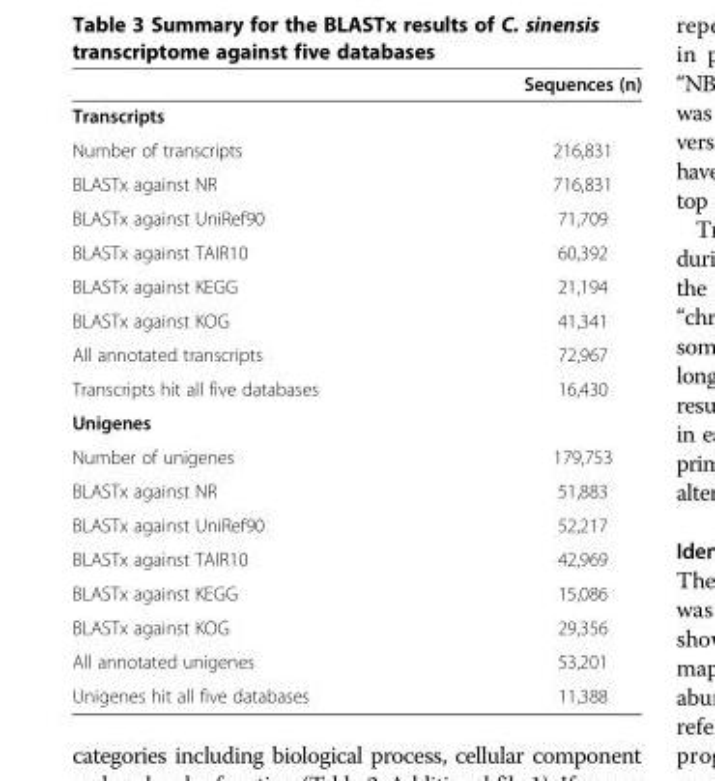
<table><thead><tr><td></td><td>Sequences (n)</td></tr></thead><tbody><tr><td colspan="2">Transcripts</td></tr><tr><td>Number of transcripts</td><td>216,831</td></tr><tr><td>BLASTx against NR</td><td>716,831</td></tr><tr><td>BLASTx against UniRef90</td><td>71,709</td></tr><tr><td>BLASTx against TAIR10</td><td>60,392</td></tr><tr><td>BLASTx against KEGG</td><td>21,194</td></tr><tr><td>BLASTx against KOG</td><td>41,341</td></tr><tr><td>All annotated transcripts</td><td>72,967</td></tr><tr><td>Transcripts hit all five databases</td><td>16,430</td></tr><tr><td colspan="2">Unigenes</td></tr><tr><td>Number of unigenes</td><td>179,753</td></tr><tr><td>BLASTx against NR</td><td>51,883</td></tr><tr><td>BLASTx against UniRef90</td><td>52,217</td></tr><tr><td>BLASTx against TAIR10</td><td>42,969</td></tr><tr><td>BLASTx against KEGG</td><td>15,086</td></tr><tr><td>BLASTx against KOG</td><td>29,356</td></tr><tr><td>All annotated unigenes</td><td>53,201</td></tr><tr><td>Unigenes hit all five databases</td><td>11,388</td></tr></tbody></table>